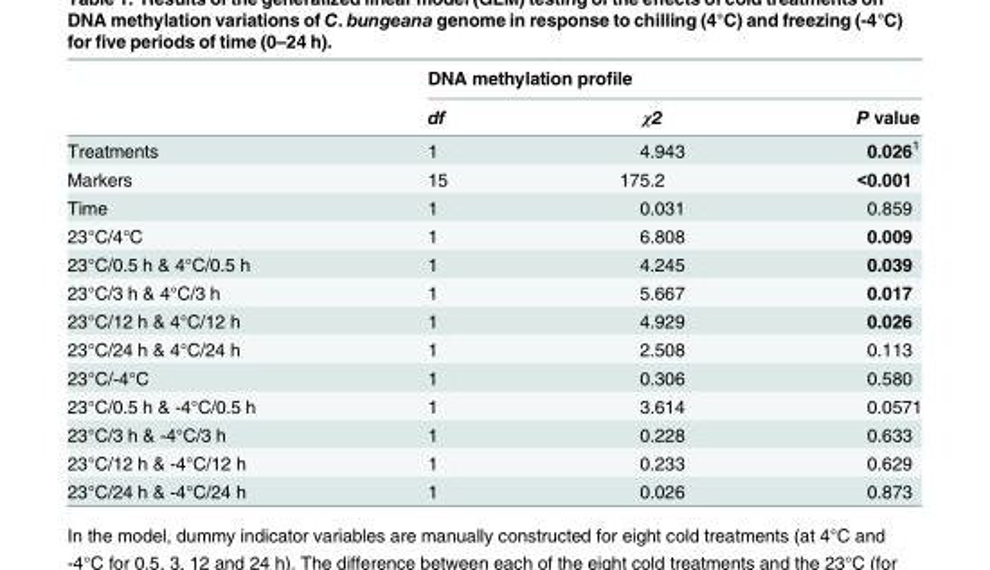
<table><thead><tr><td rowspan="2"></td><td colspan="3">DNA methylation profile</td></tr><tr><td>df</td><td>χ2</td><td>P value</td></tr></thead><tbody><tr><td>Treatments</td><td>1</td><td>4.943</td><td>0.026<sup>1</sup></td></tr><tr><td>Markers</td><td>15</td><td>175.2</td><td>&lt;0.001</td></tr><tr><td>Time</td><td>1</td><td>0.031</td><td>0.859</td></tr><tr><td>23°C/4°C</td><td>1</td><td>6.808</td><td>0.009</td></tr><tr><td>23°C/0.5 h &amp; 4°C/0.5 h</td><td>1</td><td>4.245</td><td>0.039</td></tr><tr><td>23°C/3 h &amp; 4°C/3 h</td><td>1</td><td>5.667</td><td>0.017</td></tr><tr><td>23°C/12 h &amp; 4°C/12 h</td><td>1</td><td>4.929</td><td>0.026</td></tr><tr><td>23°C/24 h &amp; 4°C/24 h</td><td>1</td><td>2.508</td><td>0.113</td></tr><tr><td>23°C/-4°C</td><td>1</td><td>0.306</td><td>0.580</td></tr><tr><td>23°C/0.5 h &amp; -4°C/0.5 h</td><td>1</td><td>3.614</td><td>0.0571</td></tr><tr><td>23°C/3 h &amp; -4°C/3 h</td><td>1</td><td>0.228</td><td>0.633</td></tr><tr><td>23°C/12 h &amp; -4°C/12 h</td><td>1</td><td>0.233</td><td>0.629</td></tr><tr><td>23°C/24 h &amp; -4°C/24 h</td><td>1</td><td>0.026</td><td>0.873</td></tr></tbody></table>